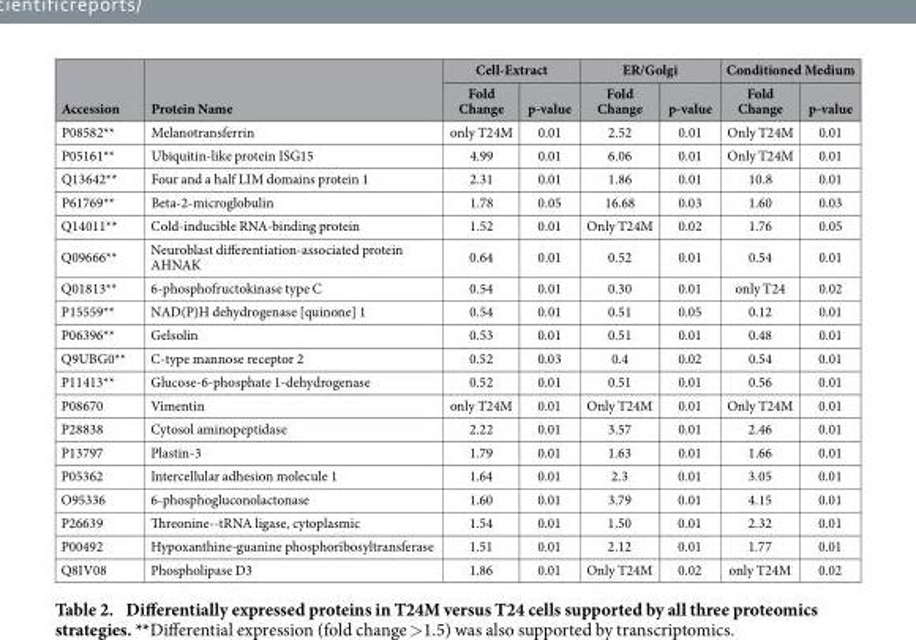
<table><thead><tr><td rowspan="2">Accession</td><td rowspan="2">Protein Name</td><td colspan="2">Cell-Extract</td><td colspan="2">ER/Golgi</td><td colspan="2">Conditioned Medium</td></tr><tr><td>Fold Change</td><td>p-value</td><td>Fold Change</td><td>p-value</td><td>Fold Change</td><td>p-value</td></tr></thead><tbody><tr><td>P08582**</td><td>Melanotransferrin</td><td>only T24M</td><td>0.01</td><td>2.52</td><td>0.01</td><td>Only T24M</td><td>0.01</td></tr><tr><td>P05161**</td><td>Ubiquitin-like protein ISG15</td><td>4.99</td><td>0.01</td><td>6.06</td><td>0.01</td><td>Only T24M</td><td>0.01</td></tr><tr><td>Q13642**</td><td>Four and a half LIM domains protein 1</td><td>2.31</td><td>0.01</td><td>1.86</td><td>0.01</td><td>10.8</td><td>0.01</td></tr><tr><td>P61769**</td><td>Beta-2-microglobulin</td><td>1.78</td><td>0.05</td><td>16.68</td><td>0.03</td><td>1.60</td><td>0.03</td></tr><tr><td>Q14011**</td><td>Cold-inducible RNA-binding protein</td><td>1.52</td><td>0.01</td><td>Only T24M</td><td>0.02</td><td>1.76</td><td>0.05</td></tr><tr><td>Q09666**</td><td>Neuroblast differentiation-associated protein AHNAK</td><td>0.64</td><td>0.01</td><td>0.52</td><td>0.01</td><td>0.54</td><td>0.01</td></tr><tr><td>Q01813**</td><td>6-phosphofructokinase type C</td><td>0.54</td><td>0.01</td><td>0.30</td><td>0.01</td><td>only T24</td><td>0.02</td></tr><tr><td>P15559**</td><td>NAD(P)H dehydrogenase [quinone] 1</td><td>0.54</td><td>0.01</td><td>0.51</td><td>0.05</td><td>0.12</td><td>0.01</td></tr><tr><td>P06396**</td><td>Gelsolin</td><td>0.53</td><td>0.01</td><td>0.51</td><td>0.01</td><td>0.48</td><td>0.01</td></tr><tr><td>Q9UBG0**</td><td>C-type mannose receptor 2</td><td>0.52</td><td>0.03</td><td>0.4</td><td>0.02</td><td>0.54</td><td>0.01</td></tr><tr><td>P11413**</td><td>Glucose-6-phosphate 1-dehydrogenase</td><td>0.52</td><td>0.01</td><td>0.51</td><td>0.01</td><td>0.56</td><td>0.01</td></tr><tr><td>P08670</td><td>Vimentin</td><td>only T24M</td><td>0.01</td><td>Only T24M</td><td>0.01</td><td>Only T24M</td><td>0.01</td></tr><tr><td>P28838</td><td>Cytosol aminopeptidase</td><td>2.22</td><td>0.01</td><td>3.57</td><td>0.01</td><td>2.46</td><td>0.01</td></tr><tr><td>P13797</td><td>Plastin-3</td><td>1.79</td><td>0.01</td><td>1.63</td><td>0.01</td><td>1.66</td><td>0.01</td></tr><tr><td>P05362</td><td>Intercellular adhesion molecule 1</td><td>1.64</td><td>0.01</td><td>2.3</td><td>0.01</td><td>3.05</td><td>0.01</td></tr><tr><td>O95336</td><td>6-phosphogluconolactonase</td><td>1.60</td><td>0.01</td><td>3.79</td><td>0.01</td><td>4.15</td><td>0.01</td></tr><tr><td>P26639</td><td>Threonine--tRNA ligase, cytoplasmic</td><td>1.54</td><td>0.01</td><td>1.50</td><td>0.01</td><td>2.32</td><td>0.01</td></tr><tr><td>P00492</td><td>Hypoxanthine-guanine phosphoribosyltransferase</td><td>1.51</td><td>0.01</td><td>2.12</td><td>0.01</td><td>1.77</td><td>0.01</td></tr><tr><td>Q8IV08</td><td>Phospholipase D3</td><td>1.86</td><td>0.01</td><td>Only T24M</td><td>0.02</td><td>only T24M</td><td>0.02</td></tr></tbody></table>